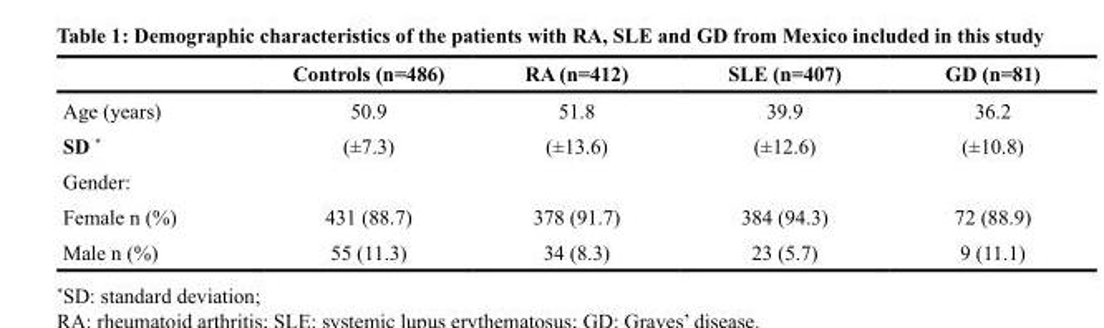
<table><thead><tr><td></td><td>Controls (n=486)</td><td>RA (n=412)</td><td>SLE (n=407)</td><td>GD (n=81)</td></tr></thead><tbody><tr><td>Age (years)</td><td>50.9</td><td>51.8</td><td>39.9</td><td>36.2</td></tr><tr><td>SD *</td><td>(±7.3)</td><td>(±13.6)</td><td>(±12.6)</td><td>(±10.8)</td></tr><tr><td colspan="5">Gender:</td></tr><tr><td>Female n (%)</td><td>431 (88.7)</td><td>378 (91.7)</td><td>384 (94.3)</td><td>72 (88.9)</td></tr><tr><td>Male n (%)</td><td>55 (11.3)</td><td>34 (8.3)</td><td>23 (5.7)</td><td>9 (11.1)</td></tr></tbody></table>